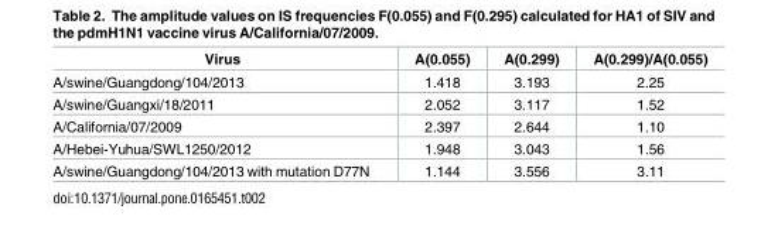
<table><thead><tr><td>Virus</td><td>A(0.055)</td><td>A(0.299)</td><td>A(0.299)/A(0.055)</td></tr></thead><tbody><tr><td>A/swine/Guangdong/104/2013</td><td>1.418</td><td>3.193</td><td>2.25</td></tr><tr><td>A/swine/Guangxi/18/2011</td><td>2.052</td><td>3.117</td><td>1.52</td></tr><tr><td>A/California/07/2009</td><td>2.397</td><td>2.644</td><td>1.10</td></tr><tr><td>A/Hebei-Yuhua/SWL1250/2012</td><td>1.948</td><td>3.043</td><td>1.56</td></tr><tr><td>A/swine/Guangdong/104/2013 with mutation D77N</td><td>1.144</td><td>3.556</td><td>3.11</td></tr></tbody></table>